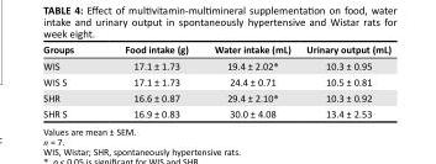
<table><thead><tr><td>Groups</td><td>Food intake (g)</td><td>Water intake (mL)</td><td>Urinary output (mL)</td></tr></thead><tbody><tr><td>WIS</td><td>17.1 ± 1.73</td><td>19.4 ± 2.02*</td><td>10.3 ± 0.95</td></tr><tr><td>WIS S</td><td>17.1 ± 1.73</td><td>24.4 ± 0.71</td><td>10.5 ± 0.81</td></tr><tr><td>SHR</td><td>16.6 ± 0.87</td><td>29.4 ± 2.10*</td><td>10.3 ± 0.92</td></tr><tr><td>SHR S</td><td>16.9 ± 0.83</td><td>30.0 ± 4.08</td><td>13.4 ± 2.53</td></tr></tbody></table>